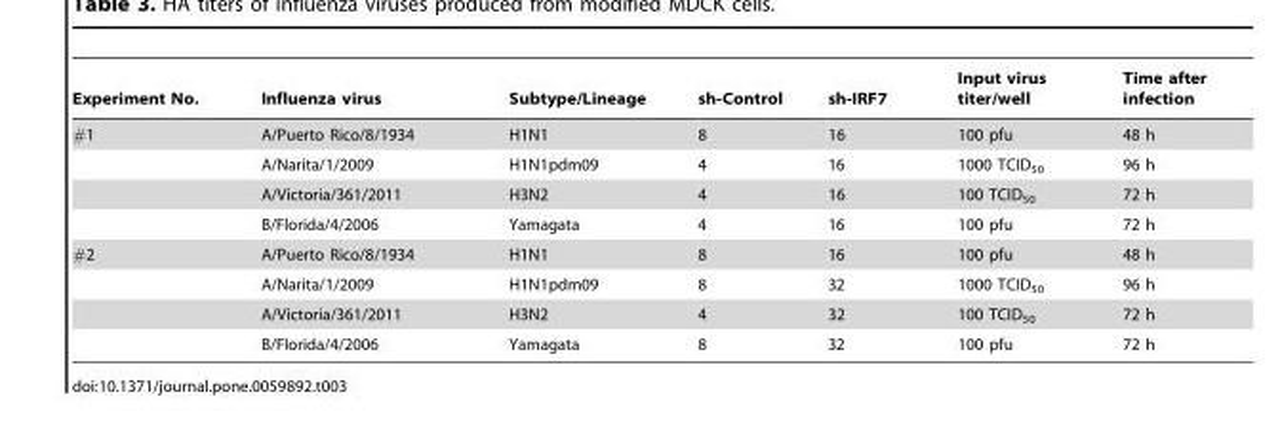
<table><thead><tr><td>Experiment No.</td><td>Influenza virus</td><td>Subtype/Lineage</td><td>sh-Control</td><td>sh-IRF7</td><td>Input virus titer/well</td><td>Time after infection</td></tr></thead><tbody><tr><td rowspan="4">#1</td><td>A/Puerto Rico/8/1934</td><td>H1N1</td><td>8</td><td>16</td><td>100 pfu</td><td>48 h</td></tr><tr><td>A/Narita/1/2009</td><td>H1N1pdm09</td><td>4</td><td>16</td><td>1000 TCID<sub>50</sub></td><td>96 h</td></tr><tr><td>A/Victoria/361/2011</td><td>H3N2</td><td>4</td><td>16</td><td>100 TCID<sub>50</sub></td><td>72 h</td></tr><tr><td>B/Florida/4/2006</td><td>Yamagata</td><td>4</td><td>16</td><td>100 pfu</td><td>72 h</td></tr><tr><td rowspan="4">#2</td><td>A/Puerto Rico/8/1934</td><td>H1N1</td><td>8</td><td>16</td><td>100 pfu</td><td>48 h</td></tr><tr><td>A/Narita/1/2009</td><td>H1N1pdm09</td><td>8</td><td>32</td><td>1000 TCID<sub>50</sub></td><td>96 h</td></tr><tr><td>A/Victoria/361/2011</td><td>H3N2</td><td>4</td><td>32</td><td>100 TCID<sub>50</sub></td><td>72 h</td></tr><tr><td>B/Florida/4/2006</td><td>Yamagata</td><td>8</td><td>32</td><td>100 pfu</td><td>72 h</td></tr></tbody></table>